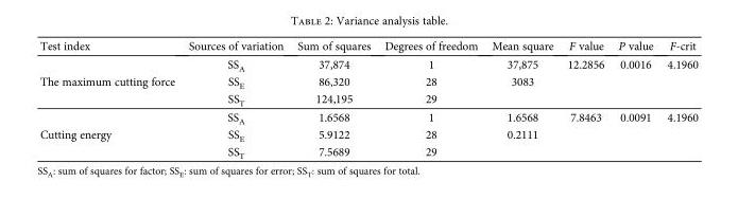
<table><thead><tr><td>Test index</td><td>Sources of variation</td><td>Sum of squares</td><td>Degrees of freedom</td><td>Mean square</td><td>F value</td><td>P value</td><td>F-crit</td></tr></thead><tbody><tr><td rowspan="3">The maximum cutting force</td><td>SS<sub>A</sub></td><td>37,874</td><td>1</td><td>37,875</td><td>12.2856</td><td>0.0016</td><td>4.1960</td></tr><tr><td>SS<sub>E</sub></td><td>86,320</td><td>28</td><td>3083</td><td></td><td></td><td></td></tr><tr><td>SS<sub>T</sub></td><td>124,195</td><td>29</td><td></td><td></td><td></td><td></td></tr><tr><td rowspan="3">Cutting energy</td><td>SS<sub>A</sub></td><td>1.6568</td><td>1</td><td>1.6568</td><td>7.8463</td><td>0.0091</td><td>4.1960</td></tr><tr><td>SS<sub>E</sub></td><td>5.9122</td><td>28</td><td>0.2111</td><td></td><td></td><td></td></tr><tr><td>SS<sub>T</sub></td><td>7.5689</td><td>29</td><td></td><td></td><td></td><td></td></tr></tbody></table>